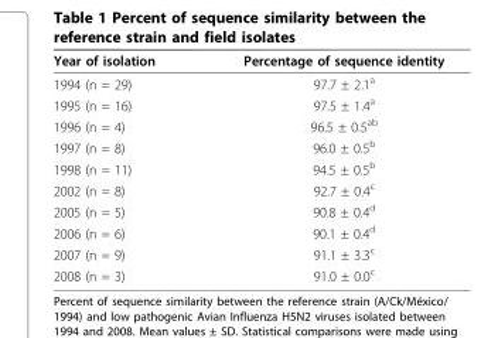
<table><thead><tr><td>Year of isolation</td><td>Percentage of sequence identity</td></tr></thead><tbody><tr><td>1994 (n = 29)</td><td>97.7 ± 2.1<sup>a</sup></td></tr><tr><td>1995 (n = 16)</td><td>97.5 ± 1.4<sup>a</sup></td></tr><tr><td>1996 (n = 4)</td><td>96.5 ± 0.5<sup>ab</sup></td></tr><tr><td>1997 (n = 8)</td><td>96.0 ± 0.5<sup>b</sup></td></tr><tr><td>1998 (n = 11)</td><td>94.5 ± 0.5<sup>b</sup></td></tr><tr><td>2002 (n = 8)</td><td>92.7 ± 0.4<sup>c</sup></td></tr><tr><td>2005 (n = 5)</td><td>90.8 ± 0.4<sup>d</sup></td></tr><tr><td>2006 (n = 6)</td><td>90.1 ± 0.4<sup>d</sup></td></tr><tr><td>2007 (n = 9)</td><td>91.1 ± 3.3<sup>c</sup></td></tr><tr><td>2008 (n = 3)</td><td>91.0 ± 0.0<sup>c</sup></td></tr></tbody></table>